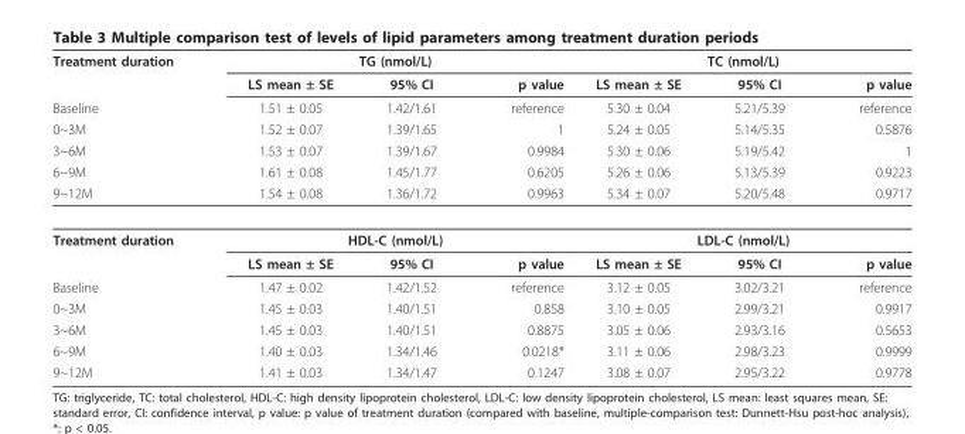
<table><thead><tr><td rowspan="7">Treatment duration Baseline 0~3M 3~6M 6~9M 9~12M</td><td colspan="3">TG (nmol/L)</td><td colspan="3">TC (nmol/L)</td></tr><tr><td rowspan="6">LS mean ± SE 1.51 ± 0.05 1.52 ± 0.07 1.53 ± 0.07 1.61 ± 0.08 1.54 ± 0.08</td><td rowspan="6">95% CI 1.42/1.61 1.39/1.65 1.39/1.67 1.45/1.77 1.36/1.72</td><td rowspan="6">p value reference 1 0.9984 0.6205 0.9963</td><td rowspan="6">LS mean ± SE 5.30 ± 0.04 5.24 ± 0.05 5.30 ± 0.06 5.26 ± 0.06 5.34 ± 0.07</td><td rowspan="6">95% CI 5.21/5.39 5.14/5.35 5.19/5.42 5.13/5.39 5.20/5.48</td><td rowspan="6">p value reference 0.5876 1 0.9223 0.9717</td></tr><tr></tr><tr></tr><tr></tr><tr></tr><tr></tr></thead><tbody><tr><td rowspan="2">Treatment duration</td><td colspan="3">HDL-C (nmol/L)</td><td colspan="3">LDL-C (nmol/L)</td></tr><tr><td>LS mean ± SE</td><td>95% CI</td><td>p value</td><td>LS mean ± SE</td><td>95% CI</td><td>p value</td></tr><tr><td>Baseline</td><td>1.47 ± 0.02</td><td>1.42/1.52</td><td>reference</td><td>3.12 ± 0.05</td><td>3.02/3.21</td><td>reference</td></tr><tr><td>0~3M</td><td>1.45 ± 0.03</td><td>1.40/1.51</td><td>0.858</td><td>3.10 ± 0.05</td><td>2.99/3.21</td><td>0.9917</td></tr><tr><td>3~6M</td><td>1.45 ± 0.03</td><td>1.40/1.51</td><td>0.8875</td><td>3.05 ± 0.06</td><td>2.93/3.16</td><td>0.5653</td></tr><tr><td>6~9M</td><td>1.40 ± 0.03</td><td>1.34/1.46</td><td>0.0218*</td><td>3.11 ± 0.06</td><td>2.98/3.23</td><td>0.9999</td></tr><tr><td>9~12M</td><td>1.41 ± 0.03</td><td>1.34/1.47</td><td>0.1247</td><td>3.08 ± 0.07</td><td>2.95/3.22</td><td>0.9778</td></tr></tbody></table>